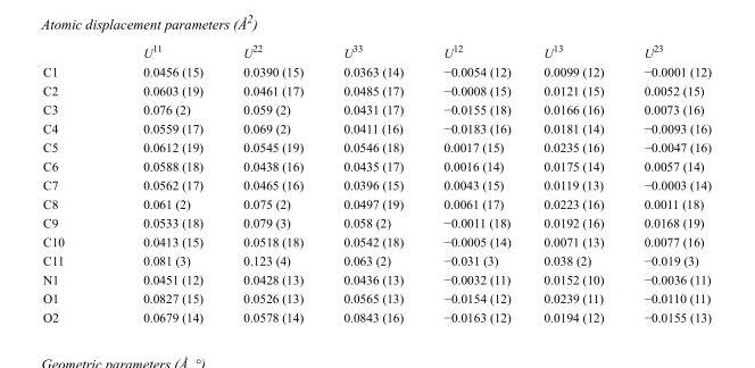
<table><thead><tr><td></td><td>U<sup>11</sup></td><td>U<sup>22</sup></td><td>U<sup>33</sup></td><td>U<sup>12</sup></td><td>U<sup>13</sup></td><td>U<sup>23</sup></td></tr></thead><tbody><tr><td>C1</td><td>0.0456 (15)</td><td>0.0390 (15)</td><td>0.0363 (14)</td><td>−0.0054 (12)</td><td>0.0099 (12)</td><td>−0.0001 (12)</td></tr><tr><td>C2</td><td>0.0603 (19)</td><td>0.0461 (17)</td><td>0.0485 (17)</td><td>−0.0008 (15)</td><td>0.0121 (15)</td><td>0.0052 (15)</td></tr><tr><td>C3</td><td>0.076 (2)</td><td>0.059 (2)</td><td>0.0431 (17)</td><td>−0.0155 (18)</td><td>0.0166 (16)</td><td>0.0073 (16)</td></tr><tr><td>C4</td><td>0.0559 (17)</td><td>0.069 (2)</td><td>0.0411 (16)</td><td>−0.0183 (16)</td><td>0.0181 (14)</td><td>−0.0093 (16)</td></tr><tr><td>C5</td><td>0.0612 (19)</td><td>0.0545 (19)</td><td>0.0546 (18)</td><td>0.0017 (15)</td><td>0.0235 (16)</td><td>−0.0047 (16)</td></tr><tr><td>C6</td><td>0.0588 (18)</td><td>0.0438 (16)</td><td>0.0435 (17)</td><td>0.0016 (14)</td><td>0.0175 (14)</td><td>0.0057 (14)</td></tr><tr><td>C7</td><td>0.0562 (17)</td><td>0.0465 (16)</td><td>0.0396 (15)</td><td>0.0043 (15)</td><td>0.0119 (13)</td><td>−0.0003 (14)</td></tr><tr><td>C8</td><td>0.061 (2)</td><td>0.075 (2)</td><td>0.0497 (19)</td><td>0.0061 (17)</td><td>0.0223 (16)</td><td>0.0011 (18)</td></tr><tr><td>C9</td><td>0.0533 (18)</td><td>0.079 (3)</td><td>0.058 (2)</td><td>−0.0011 (18)</td><td>0.0192 (16)</td><td>0.0168 (19)</td></tr><tr><td>C10</td><td>0.0413 (15)</td><td>0.0518 (18)</td><td>0.0542 (18)</td><td>−0.0005 (14)</td><td>0.0071 (13)</td><td>0.0077 (16)</td></tr><tr><td>C11</td><td>0.081 (3)</td><td>0.123 (4)</td><td>0.063 (2)</td><td>−0.031 (3)</td><td>0.038 (2)</td><td>−0.019 (3)</td></tr><tr><td>N1</td><td>0.0451 (12)</td><td>0.0428 (13)</td><td>0.0436 (13)</td><td>−0.0032 (11)</td><td>0.0152 (10)</td><td>−0.0036 (11)</td></tr><tr><td>O1</td><td>0.0827 (15)</td><td>0.0526 (13)</td><td>0.0565 (13)</td><td>−0.0154 (12)</td><td>0.0239 (11)</td><td>−0.0110 (11)</td></tr><tr><td>O2</td><td>0.0679 (14)</td><td>0.0578 (14)</td><td>0.0843 (16)</td><td>−0.0163 (12)</td><td>0.0194 (12)</td><td>−0.0155 (13)</td></tr></tbody></table>